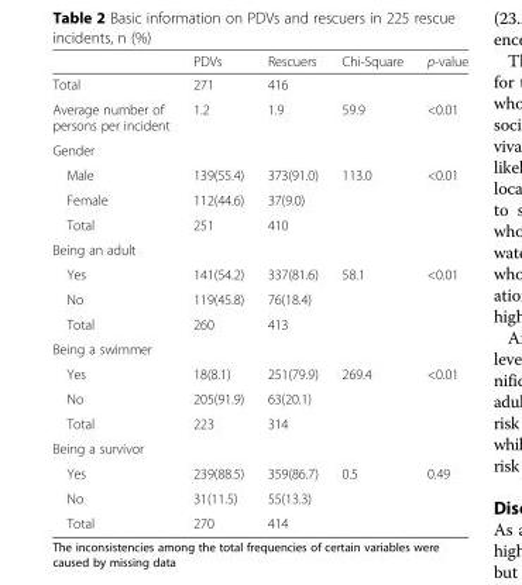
<table><thead><tr><td></td><td>PDVs</td><td>Rescuers</td><td>Chi-Square</td><td>p-value</td></tr></thead><tbody><tr><td>Total</td><td>271</td><td>416</td><td></td><td></td></tr><tr><td>Average number of persons per incident</td><td>1.2</td><td>1.9</td><td>59.9</td><td>&lt;0.01</td></tr><tr><td colspan="5">Gender</td></tr><tr><td>Male</td><td>139(55.4)</td><td>373(91.0)</td><td rowspan="3">113.0</td><td rowspan="3">&lt;0.01</td></tr><tr><td>Female</td><td>112(44.6)</td><td>37(9.0)</td></tr><tr><td>Total</td><td>251</td><td>410</td></tr><tr><td colspan="5">Being an adult</td></tr><tr><td>Yes</td><td>141(54.2)</td><td>337(81.6)</td><td rowspan="3">58.1</td><td rowspan="3">&lt;0.01</td></tr><tr><td>No</td><td>119(45.8)</td><td>76(18.4)</td></tr><tr><td>Total</td><td>260</td><td>413</td></tr><tr><td colspan="5">Being a swimmer</td></tr><tr><td>Yes</td><td>18(8.1)</td><td>251(79.9)</td><td rowspan="3">269.4</td><td rowspan="3">&lt;0.01</td></tr><tr><td>No</td><td>205(91.9)</td><td>63(20.1)</td></tr><tr><td>Total</td><td>223</td><td>314</td></tr><tr><td colspan="5">Being a survivor</td></tr><tr><td>Yes</td><td>239(88.5)</td><td>359(86.7)</td><td rowspan="3">0.5</td><td rowspan="3">0.49</td></tr><tr><td>No</td><td>31(11.5)</td><td>55(13.3)</td></tr><tr><td>Total</td><td>270</td><td>414</td></tr></tbody></table>